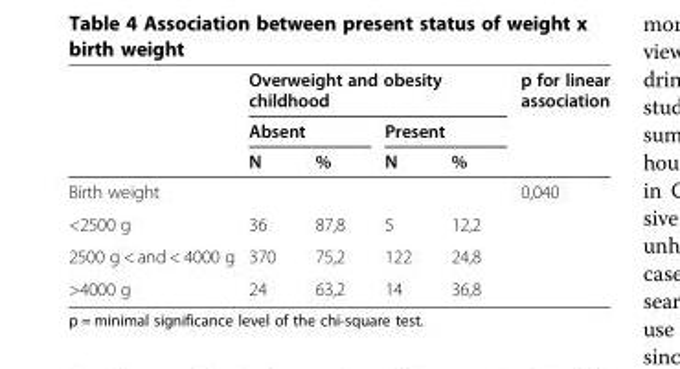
<table><thead><tr><td rowspan="3"></td><td colspan="4">Overweight and obesity childhood</td><td rowspan="3">p for linear association</td></tr><tr><td colspan="2">Absent</td><td colspan="2">Present</td></tr><tr><td>N</td><td>%</td><td>N</td><td>%</td></tr></thead><tbody><tr><td colspan="5">Birth weight</td><td rowspan="4">0,040</td></tr><tr><td>&lt;2500 g</td><td>36</td><td>87,8</td><td>5</td><td>12,2</td></tr><tr><td>2500 g &lt; and &lt; 4000 g</td><td>370</td><td>75,2</td><td>122</td><td>24,8</td></tr><tr><td>&gt;4000 g</td><td>24</td><td>63,2</td><td>14</td><td>36,8</td></tr></tbody></table>